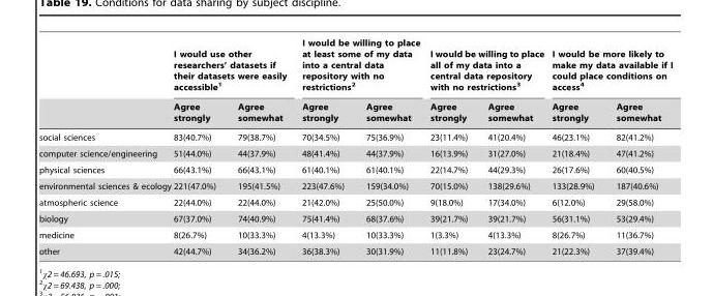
<table><thead><tr><td rowspan="2"></td><td colspan="2">I would use other researchers’ datasets if their datasets were easily accessible<sup>1</sup></td><td colspan="2">I would be willing to place at least some of my data into a central data repository with no restrictions<sup>2</sup></td><td colspan="2">I would be willing to place all of my data into a central data repository with no restrictions<sup>3</sup></td><td colspan="2">I would be more likely to make my data available if I could place conditions on access<sup>4</sup></td></tr><tr><td>Agree strongly</td><td>Agree somewhat</td><td>Agree strongly</td><td>Agree somewhat</td><td>Agree strongly</td><td>Agree somewhat</td><td>Agree strongly</td><td>Agree somewhat</td></tr></thead><tbody><tr><td>social sciences</td><td>83(40.7%)</td><td>79(38.7%)</td><td>70(34.5%)</td><td>75(36.9%)</td><td>23(11.4%)</td><td>41(20.4%)</td><td>46(23.1%)</td><td>82(41.2%)</td></tr><tr><td>computer science/engineering</td><td>51(44.0%)</td><td>44(37.9%)</td><td>48(41.4%)</td><td>44(37.9%)</td><td>16(13.9%)</td><td>31(27.0%)</td><td>21(18.4%)</td><td>47(41.2%)</td></tr><tr><td>physical sciences</td><td>66(43.1%)</td><td>66(43.1%)</td><td>61(40.1%)</td><td>61(40.1%)</td><td>22(14.7%)</td><td>44(29.3%)</td><td>26(17.6%)</td><td>60(40.5%)</td></tr><tr><td>environmental sciences &amp; ecology</td><td>221(47.0%)</td><td>195(41.5%)</td><td>223(47.6%)</td><td>159(34.0%)</td><td>70(15.0%)</td><td>138(29.6%)</td><td>133(28.9%)</td><td>187(40.6%)</td></tr><tr><td>atmospheric science</td><td>22(44.0%)</td><td>22(44.0%)</td><td>21(42.0%)</td><td>25(50.0%)</td><td>9(18.0%)</td><td>17(34.0%)</td><td>6(12.0%)</td><td>29(58.0%)</td></tr><tr><td>biology</td><td>67(37.0%)</td><td>74(40.9%)</td><td>75(41.4%)</td><td>68(37.6%)</td><td>39(21.7%)</td><td>39(21.7%)</td><td>56(31.1%)</td><td>53(29.4%)</td></tr><tr><td>medicine</td><td>8(26.7%)</td><td>10(33.3%)</td><td>4(13.3%)</td><td>10(33.3%)</td><td>1(3.3%)</td><td>4(13.3%)</td><td>8(26.7%)</td><td>11(36.7%)</td></tr><tr><td>other</td><td>42(44.7%)</td><td>34(36.2%)</td><td>36(38.3%)</td><td>30(31.9%)</td><td>11(11.8%)</td><td>23(24.7%)</td><td>21(22.3%)</td><td>37(39.4%)</td></tr></tbody></table>